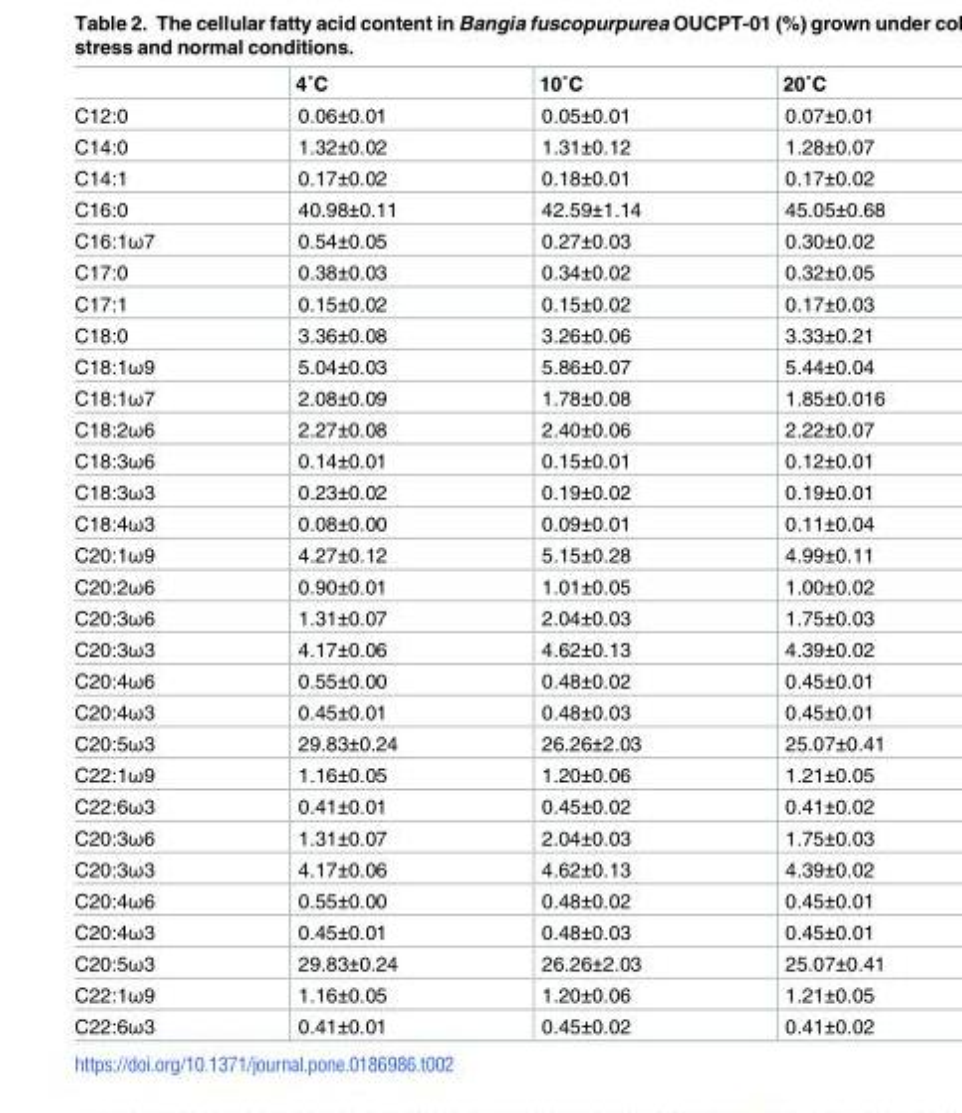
<table><thead><tr><td></td><td>4˚C</td><td>10˚C</td><td>20˚C</td></tr></thead><tbody><tr><td>C12:0</td><td>0.06±0.01</td><td>0.05±0.01</td><td>0.07±0.01</td></tr><tr><td>C14:0</td><td>1.32±0.02</td><td>1.31±0.12</td><td>1.28±0.07</td></tr><tr><td>C14:1</td><td>0.17±0.02</td><td>0.18±0.01</td><td>0.17±0.02</td></tr><tr><td>C16:0</td><td>40.98±0.11</td><td>42.59±1.14</td><td>45.05±0.68</td></tr><tr><td>C16:1ω7</td><td>0.54±0.05</td><td>0.27±0.03</td><td>0.30±0.02</td></tr><tr><td>C17:0</td><td>0.38±0.03</td><td>0.34±0.02</td><td>0.32±0.05</td></tr><tr><td>C17:1</td><td>0.15±0.02</td><td>0.15±0.02</td><td>0.17±0.03</td></tr><tr><td>C18:0</td><td>3.36±0.08</td><td>3.26±0.06</td><td>3.33±0.21</td></tr><tr><td>C18:1ω9</td><td>5.04±0.03</td><td>5.86±0.07</td><td>5.44±0.04</td></tr><tr><td>C18:1ω7</td><td>2.08±0.09</td><td>1.78±0.08</td><td>1.85±0.016</td></tr><tr><td>C18:2ω6</td><td>2.27±0.08</td><td>2.40±0.06</td><td>2.22±0.07</td></tr><tr><td>C18:3ω6</td><td>0.14±0.01</td><td>0.15±0.01</td><td>0.12±0.01</td></tr><tr><td>C18:3ω3</td><td>0.23±0.02</td><td>0.19±0.02</td><td>0.19±0.01</td></tr><tr><td>C18:4ω3</td><td>0.08±0.00</td><td>0.09±0.01</td><td>0.11±0.04</td></tr><tr><td>C20:1ω9</td><td>4.27±0.12</td><td>5.15±0.28</td><td>4.99±0.11</td></tr><tr><td>C20:2ω6</td><td>0.90±0.01</td><td>1.01±0.05</td><td>1.00±0.02</td></tr><tr><td>C20:3ω6</td><td>1.31±0.07</td><td>2.04±0.03</td><td>1.75±0.03</td></tr><tr><td>C20:3ω3</td><td>4.17±0.06</td><td>4.62±0.13</td><td>4.39±0.02</td></tr><tr><td>C20:4ω6</td><td>0.55±0.00</td><td>0.48±0.02</td><td>0.45±0.01</td></tr><tr><td>C20:4ω3</td><td>0.45±0.01</td><td>0.48±0.03</td><td>0.45±0.01</td></tr><tr><td>C20:5ω3</td><td>29.83±0.24</td><td>26.26±2.03</td><td>25.07±0.41</td></tr><tr><td>C22:1ω9</td><td>1.16±0.05</td><td>1.20±0.06</td><td>1.21±0.05</td></tr><tr><td>C22:6ω3</td><td>0.41±0.01</td><td>0.45±0.02</td><td>0.41±0.02</td></tr><tr><td>C20:3ω6</td><td>1.31±0.07</td><td>2.04±0.03</td><td>1.75±0.03</td></tr><tr><td>C20:3ω3</td><td>4.17±0.06</td><td>4.62±0.13</td><td>4.39±0.02</td></tr><tr><td>C20:4ω6</td><td>0.55±0.00</td><td>0.48±0.02</td><td>0.45±0.01</td></tr><tr><td>C20:4ω3</td><td>0.45±0.01</td><td>0.48±0.03</td><td>0.45±0.01</td></tr><tr><td>C20:5ω3</td><td>29.83±0.24</td><td>26.26±2.03</td><td>25.07±0.41</td></tr><tr><td>C22:1ω9</td><td>1.16±0.05</td><td>1.20±0.06</td><td>1.21±0.05</td></tr><tr><td>C22:6ω3</td><td>0.41±0.01</td><td>0.45±0.02</td><td>0.41±0.02</td></tr></tbody></table>